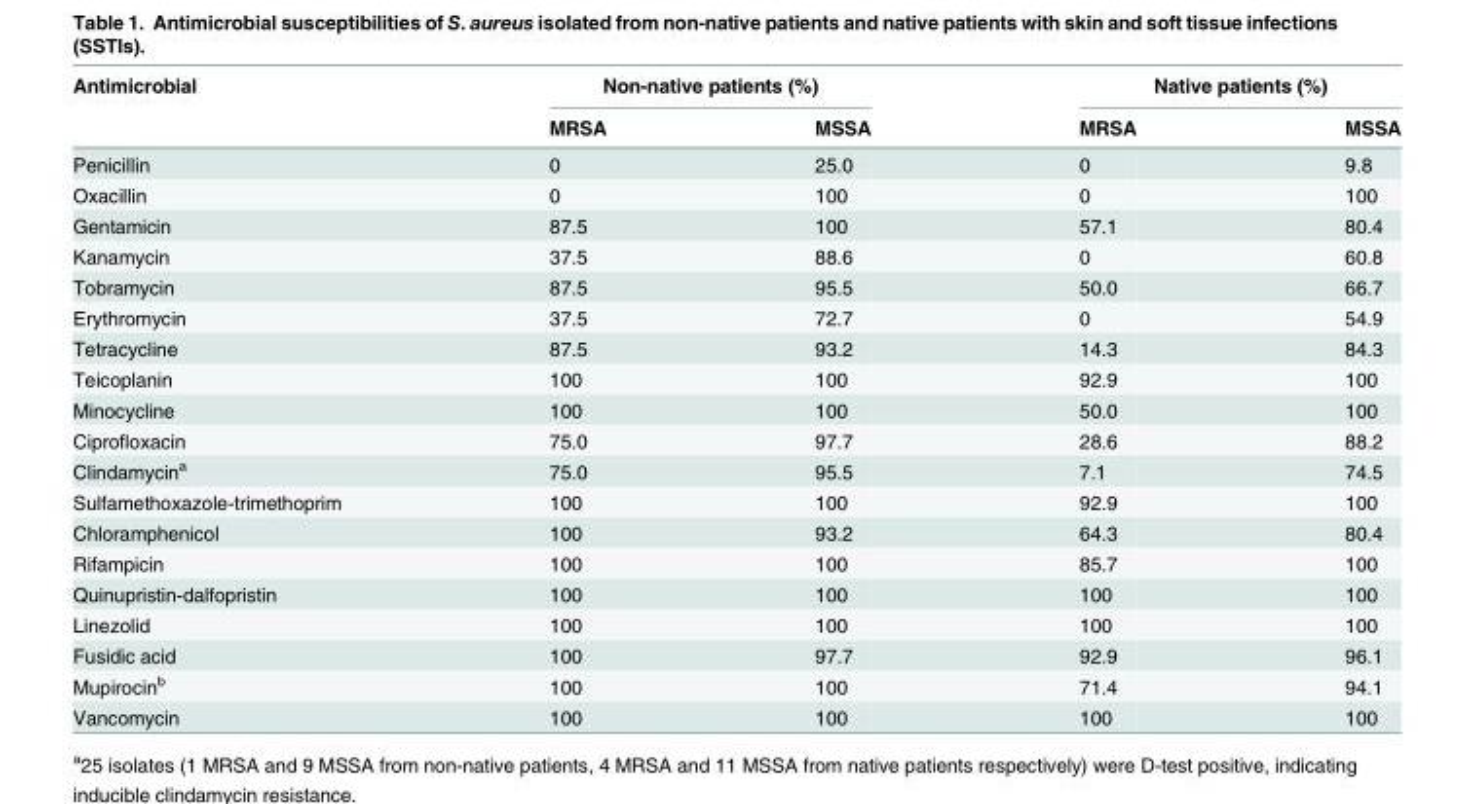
<table><thead><tr><td rowspan="2">Antimicrobial</td><td colspan="2">Non-native patients (%)</td><td colspan="2">Native patients (%)</td></tr><tr><td>MRSA</td><td>MSSA</td><td>MRSA</td><td>MSSA</td></tr></thead><tbody><tr><td>Penicillin</td><td>0</td><td>25.0</td><td>0</td><td>9.8</td></tr><tr><td>Oxacillin</td><td>0</td><td>100</td><td>0</td><td>100</td></tr><tr><td>Gentamicin</td><td>87.5</td><td>100</td><td>57.1</td><td>80.4</td></tr><tr><td>Kanamycin</td><td>37.5</td><td>88.6</td><td>0</td><td>60.8</td></tr><tr><td>Tobramycin</td><td>87.5</td><td>95.5</td><td>50.0</td><td>66.7</td></tr><tr><td>Erythromycin</td><td>37.5</td><td>72.7</td><td>0</td><td>54.9</td></tr><tr><td>Tetracycline</td><td>87.5</td><td>93.2</td><td>14.3</td><td>84.3</td></tr><tr><td>Teicoplanin</td><td>100</td><td>100</td><td>92.9</td><td>100</td></tr><tr><td>Minocycline</td><td>100</td><td>100</td><td>50.0</td><td>100</td></tr><tr><td>Ciprofloxacin</td><td>75.0</td><td>97.7</td><td>28.6</td><td>88.2</td></tr><tr><td>Clindamycin<sup>a</sup></td><td>75.0</td><td>95.5</td><td>7.1</td><td>74.5</td></tr><tr><td>Sulfamethoxazole-trimethoprim</td><td>100</td><td>100</td><td>92.9</td><td>100</td></tr><tr><td>Chloramphenicol</td><td>100</td><td>93.2</td><td>64.3</td><td>80.4</td></tr><tr><td>Rifampicin</td><td>100</td><td>100</td><td>85.7</td><td>100</td></tr><tr><td>Quinupristin-dalfopristin</td><td>100</td><td>100</td><td>100</td><td>100</td></tr><tr><td>Linezolid</td><td>100</td><td>100</td><td>100</td><td>100</td></tr><tr><td>Fusidic acid</td><td>100</td><td>97.7</td><td>92.9</td><td>96.1</td></tr><tr><td>Mupirocin<sup>b</sup></td><td>100</td><td>100</td><td>71.4</td><td>94.1</td></tr><tr><td>Vancomycin</td><td>100</td><td>100</td><td>100</td><td>100</td></tr></tbody></table>